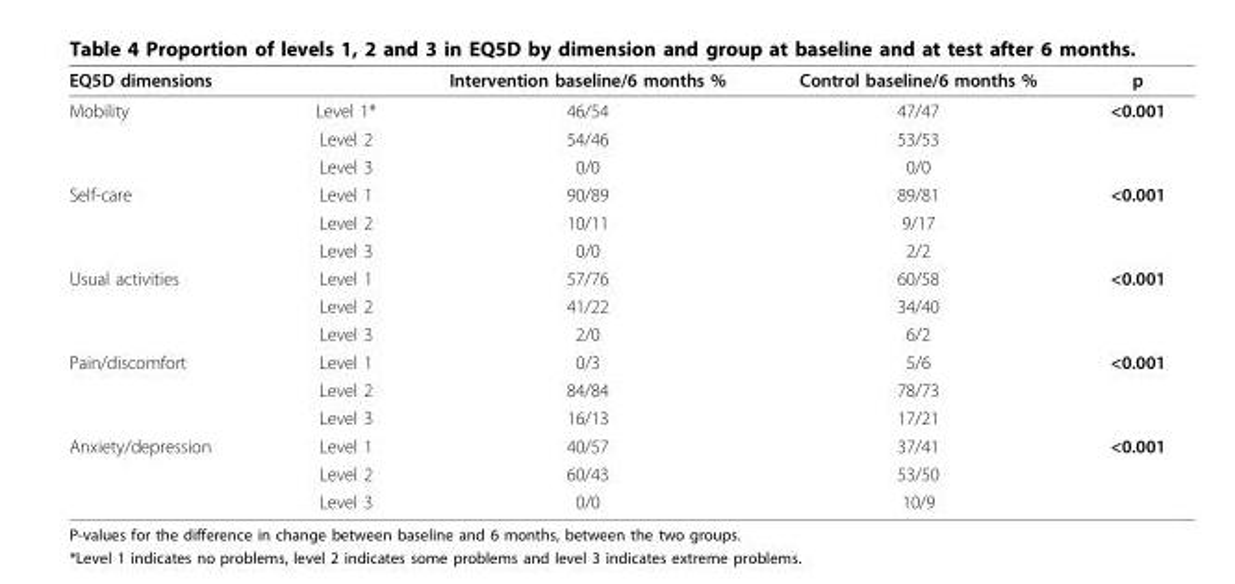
<table><thead><tr><td>EQ5D dimensions</td><td></td><td>Intervention baseline/6 months %</td><td>Control baseline/6 months %</td><td>p</td></tr></thead><tbody><tr><td rowspan="3">Mobility</td><td>Level 1*</td><td>46/54</td><td>47/47</td><td>&lt;0.001</td></tr><tr><td>Level 2</td><td>54/46</td><td>53/53</td><td></td></tr><tr><td>Level 3</td><td>0/0</td><td>0/0</td><td></td></tr><tr><td rowspan="3">Self-care</td><td>Level 1</td><td>90/89</td><td>89/81</td><td>&lt;0.001</td></tr><tr><td>Level 2</td><td>10/11</td><td>9/17</td><td></td></tr><tr><td>Level 3</td><td>0/0</td><td>2/2</td><td></td></tr><tr><td rowspan="3">Usual activities</td><td>Level 1</td><td>57/76</td><td>60/58</td><td>&lt;0.001</td></tr><tr><td>Level 2</td><td>41/22</td><td>34/40</td><td></td></tr><tr><td>Level 3</td><td>2/0</td><td>6/2</td><td></td></tr><tr><td rowspan="3">Pain/discomfort</td><td>Level 1</td><td>0/3</td><td>5/6</td><td>&lt;0.001</td></tr><tr><td>Level 2</td><td>84/84</td><td>78/73</td><td></td></tr><tr><td>Level 3</td><td>16/13</td><td>17/21</td><td></td></tr><tr><td rowspan="3">Anxiety/depression</td><td>Level 1</td><td>40/57</td><td>37/41</td><td>&lt;0.001</td></tr><tr><td>Level 2</td><td>60/43</td><td>53/50</td><td></td></tr><tr><td>Level 3</td><td>0/0</td><td>10/9</td><td></td></tr></tbody></table>